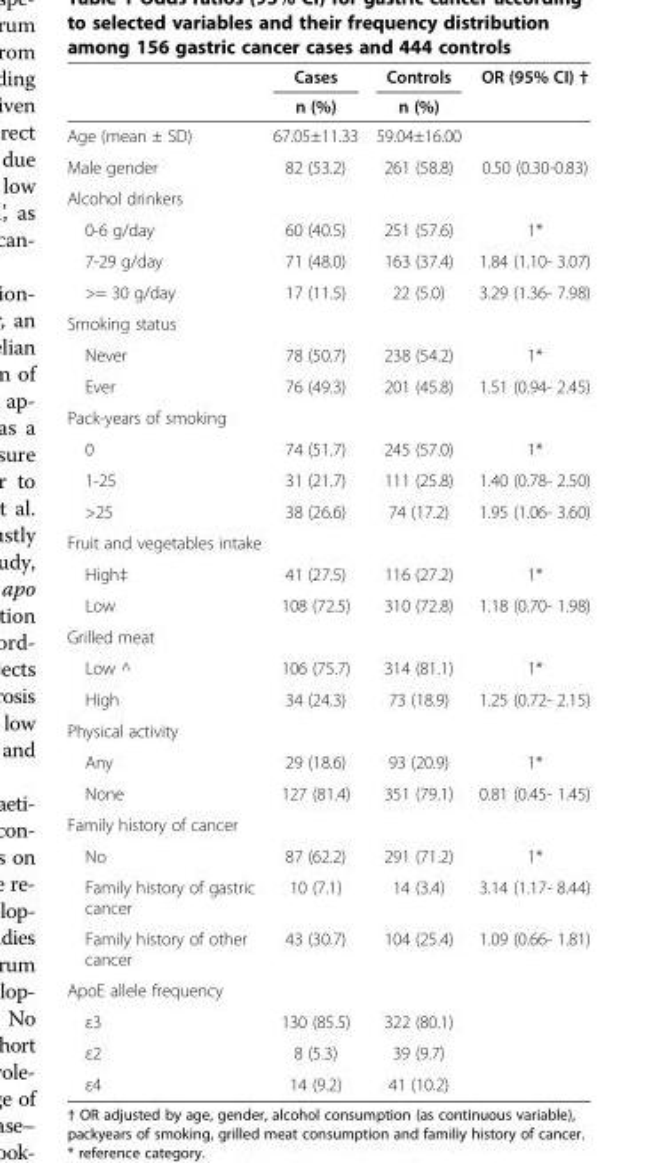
<table><thead><tr><td rowspan="2"></td><td rowspan="2">Cases n (%)</td><td rowspan="2">Controls n (%)</td><td rowspan="2">OR (95% CI) †</td></tr><tr></tr></thead><tbody><tr><td>Age (mean ± SD)</td><td>67.05±11.33</td><td>59.04±16.00</td><td></td></tr><tr><td>Male gender</td><td>82 (53.2)</td><td>261 (58.8)</td><td>0.50 (0.30-0.83)</td></tr><tr><td colspan="4">Alcohol drinkers</td></tr><tr><td>0-6 g/day</td><td>60 (40.5)</td><td>251 (57.6)</td><td>1*</td></tr><tr><td>7-29 g/day</td><td>71 (48.0)</td><td>163 (37.4)</td><td>1.84 (1.10- 3.07)</td></tr><tr><td>&gt;= 30 g/day</td><td>17 (11.5)</td><td>22 (5.0)</td><td>3.29 (1.36- 7.98)</td></tr><tr><td colspan="4">Smoking status</td></tr><tr><td>Never</td><td>78 (50.7)</td><td>238 (54.2)</td><td>1*</td></tr><tr><td>Ever</td><td>76 (49.3)</td><td>201 (45.8)</td><td>1.51 (0.94- 2.45)</td></tr><tr><td colspan="4">Pack-years of smoking</td></tr><tr><td>0</td><td>74 (51.7)</td><td>245 (57.0)</td><td>1*</td></tr><tr><td>1-25</td><td>31 (21.7)</td><td>111 (25.8)</td><td>1.40 (0.78- 2.50)</td></tr><tr><td>&gt;25</td><td>38 (26.6)</td><td>74 (17.2)</td><td>1.95 (1.06- 3.60)</td></tr><tr><td colspan="4">Fruit and vegetables intake</td></tr><tr><td>High‡</td><td>41 (27.5)</td><td>116 (27.2)</td><td>1*</td></tr><tr><td>Low</td><td>108 (72.5)</td><td>310 (72.8)</td><td>1.18 (0.70- 1.98)</td></tr><tr><td colspan="4">Grilled meat</td></tr><tr><td>Low ^</td><td>106 (75.7)</td><td>314 (81.1)</td><td>1*</td></tr><tr><td>High</td><td>34 (24.3)</td><td>73 (18.9)</td><td>1.25 (0.72- 2.15)</td></tr><tr><td colspan="4">Physical activity</td></tr><tr><td>Any</td><td>29 (18.6)</td><td>93 (20.9)</td><td>1*</td></tr><tr><td>None</td><td>127 (81.4)</td><td>351 (79.1)</td><td>0.81 (0.45- 1.45)</td></tr><tr><td colspan="4">Family history of cancer</td></tr><tr><td>No</td><td>87 (62.2)</td><td>291 (71.2)</td><td>1*</td></tr><tr><td>Family history of gastric cancer</td><td>10 (7.1)</td><td>14 (3.4)</td><td>3.14 (1.17- 8.44)</td></tr><tr><td>Family history of other cancer</td><td>43 (30.7)</td><td>104 (25.4)</td><td>1.09 (0.66- 1.81)</td></tr><tr><td colspan="4">ApoE allele frequency</td></tr><tr><td>ε3</td><td>130 (85.5)</td><td>322 (80.1)</td><td></td></tr><tr><td>ε2</td><td>8 (5.3)</td><td>39 (9.7)</td><td></td></tr><tr><td>ε4</td><td>14 (9.2)</td><td>41 (10.2)</td><td></td></tr></tbody></table>